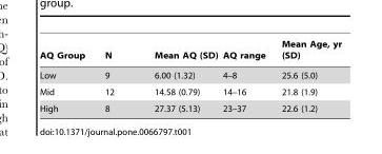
<table><thead><tr><td>AQ Group</td><td>N</td><td>Mean AQ (SD)</td><td>AQ range</td><td>Mean Age, yr (SD)</td></tr></thead><tbody><tr><td>Low</td><td>9</td><td>6.00 (1.32)</td><td>4–8</td><td>25.6 (5.0)</td></tr><tr><td>Mid</td><td>12</td><td>14.58 (0.79)</td><td>14–16</td><td>21.8 (1.9)</td></tr><tr><td>High</td><td>8</td><td>27.37 (5.13)</td><td>23–37</td><td>22.6 (1.2)</td></tr></tbody></table>